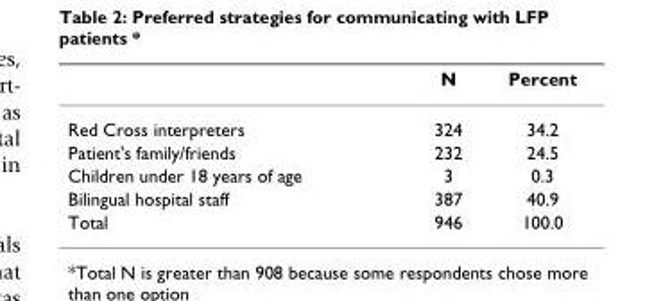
<table><thead><tr><td></td><td>N</td><td>Percent</td></tr></thead><tbody><tr><td>Red Cross interpreters</td><td>324</td><td>34.2</td></tr><tr><td>Patient&#x27;s family/friends</td><td>232</td><td>24.5</td></tr><tr><td>Children under 18 years of age</td><td>3</td><td>0.3</td></tr><tr><td>Bilingual hospital staff</td><td>387</td><td>40.9</td></tr><tr><td>Total</td><td>946</td><td>100.0</td></tr></tbody></table>